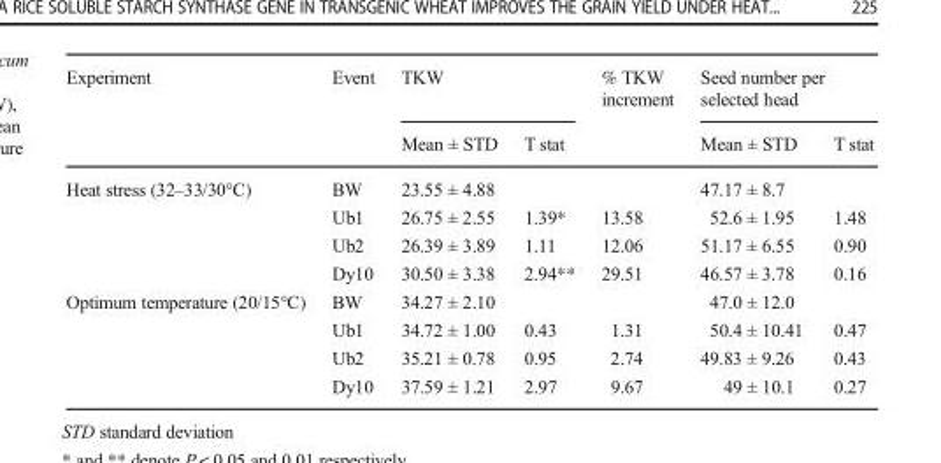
<table><thead><tr><td rowspan="2">Experiment</td><td rowspan="2">Event</td><td colspan="2">TKW</td><td rowspan="2">% TKW increment</td><td colspan="2">Seed number per selected head</td></tr><tr><td>Mean ± STD</td><td>T stat</td><td>Mean ± STD</td><td>T stat</td></tr></thead><tbody><tr><td rowspan="4">Heat stress (32–33/30°C)</td><td>BW</td><td>23.55 ± 4.88</td><td></td><td></td><td>47.17 ± 8.7</td><td></td></tr><tr><td>Ub1</td><td>26.75 ± 2.55</td><td>1.39*</td><td>13.58</td><td>52.6 ± 1.95</td><td>1.48</td></tr><tr><td>Ub2</td><td>26.39 ± 3.89</td><td>1.11</td><td>12.06</td><td>51.17 ± 6.55</td><td>0.90</td></tr><tr><td>Dy10</td><td>30.50 ± 3.38</td><td>2.94**</td><td>29.51</td><td>46.57 ± 3.78</td><td>0.16</td></tr><tr><td rowspan="4">Optimum temperature (20/15°C)</td><td>BW</td><td>34.27 ± 2.10</td><td></td><td></td><td>47.0 ± 12.0</td><td></td></tr><tr><td>Ub1</td><td>34.72 ± 1.00</td><td>0.43</td><td>1.31</td><td>50.4 ± 10.41</td><td>0.47</td></tr><tr><td>Ub2</td><td>35.21 ± 0.78</td><td>0.95</td><td>2.74</td><td>49.83 ± 9.26</td><td>0.43</td></tr><tr><td>Dy10</td><td>37.59 ± 1.21</td><td>2.97</td><td>9.67</td><td>49 ± 10.1</td><td>0.27</td></tr></tbody></table>